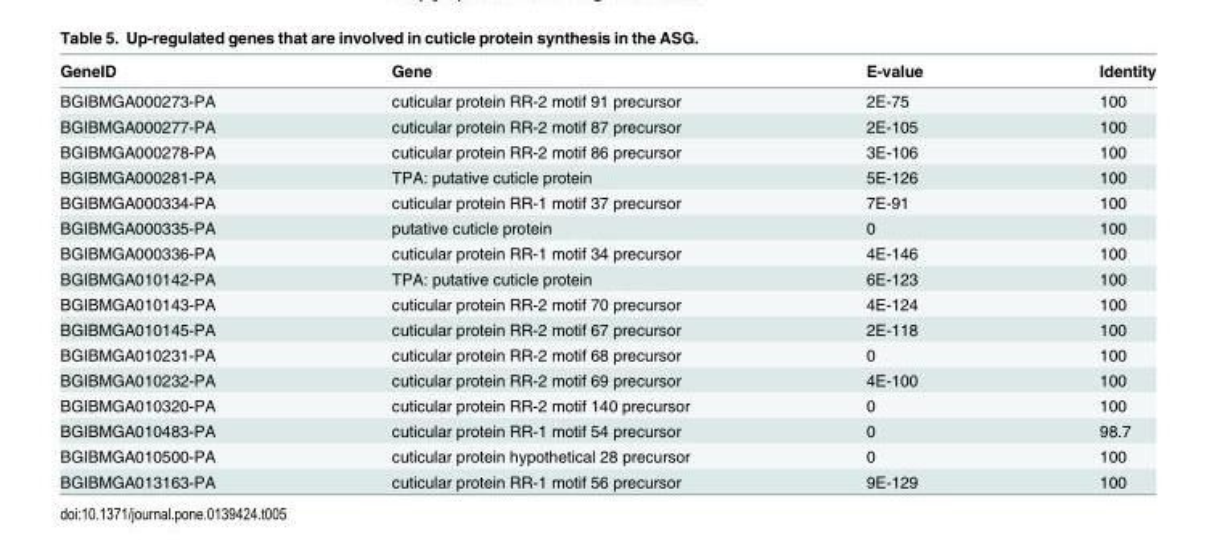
<table><thead><tr><td>GeneID</td><td>Gene</td><td>E-value</td><td>Identity</td></tr></thead><tbody><tr><td>BGIBMGA000273-PA</td><td>cuticular protein RR-2 motif 91 precursor</td><td>2E-75</td><td>100</td></tr><tr><td>BGIBMGA000277-PA</td><td>cuticular protein RR-2 motif 87 precursor</td><td>2E-105</td><td>100</td></tr><tr><td>BGIBMGA000278-PA</td><td>cuticular protein RR-2 motif 86 precursor</td><td>3E-106</td><td>100</td></tr><tr><td>BGIBMGA000281-PA</td><td>TPA: putative cuticle protein</td><td>5E-126</td><td>100</td></tr><tr><td>BGIBMGA000334-PA</td><td>cuticular protein RR-1 motif 37 precursor</td><td>7E-91</td><td>100</td></tr><tr><td>BGIBMGA000335-PA</td><td>putative cuticle protein</td><td>0</td><td>100</td></tr><tr><td>BGIBMGA000336-PA</td><td>cuticular protein RR-1 motif 34 precursor</td><td>4E-146</td><td>100</td></tr><tr><td>BGIBMGA010142-PA</td><td>TPA: putative cuticle protein</td><td>6E-123</td><td>100</td></tr><tr><td>BGIBMGA010143-PA</td><td>cuticular protein RR-2 motif 70 precursor</td><td>4E-124</td><td>100</td></tr><tr><td>BGIBMGA010145-PA</td><td>cuticular protein RR-2 motif 67 precursor</td><td>2E-118</td><td>100</td></tr><tr><td>BGIBMGA010231-PA</td><td>cuticular protein RR-2 motif 68 precursor</td><td>0</td><td>100</td></tr><tr><td>BGIBMGA010232-PA</td><td>cuticular protein RR-2 motif 69 precursor</td><td>4E-100</td><td>100</td></tr><tr><td>BGIBMGA010320-PA</td><td>cuticular protein RR-2 motif 140 precursor</td><td>0</td><td>100</td></tr><tr><td>BGIBMGA010483-PA</td><td>cuticular protein RR-1 motif 54 precursor</td><td>0</td><td>98.7</td></tr><tr><td>BGIBMGA010500-PA</td><td>cuticular protein hypothetical 28 precursor</td><td>0</td><td>100</td></tr><tr><td>BGIBMGA013163-PA</td><td>cuticular protein RR-1 motif 56 precursor</td><td>9E-129</td><td>100</td></tr></tbody></table>